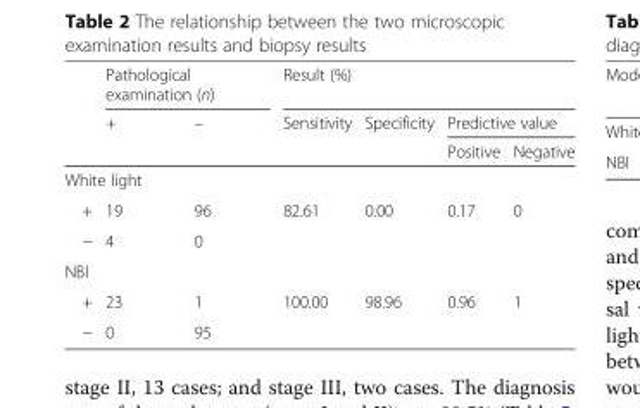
<table><thead><tr><td rowspan="3"></td><td colspan="2">Pathological examination (n)</td><td colspan="4">Result (%)</td></tr><tr><td rowspan="2">+</td><td rowspan="2">–</td><td rowspan="2">Sensitivity</td><td rowspan="2">Specificity</td><td colspan="2">Predictive value</td></tr><tr><td>Positive</td><td>Negative</td></tr></thead><tbody><tr><td colspan="7">White light</td></tr><tr><td>+</td><td>19</td><td>96</td><td>82.61</td><td>0.00</td><td>0.17</td><td>0</td></tr><tr><td>−</td><td>4</td><td>0</td><td></td><td></td><td></td><td></td></tr><tr><td colspan="7">NBI</td></tr><tr><td>+</td><td>23</td><td>1</td><td>100.00</td><td>98.96</td><td>0.96</td><td>1</td></tr><tr><td>−</td><td>0</td><td>95</td><td></td><td></td><td></td><td></td></tr></tbody></table>